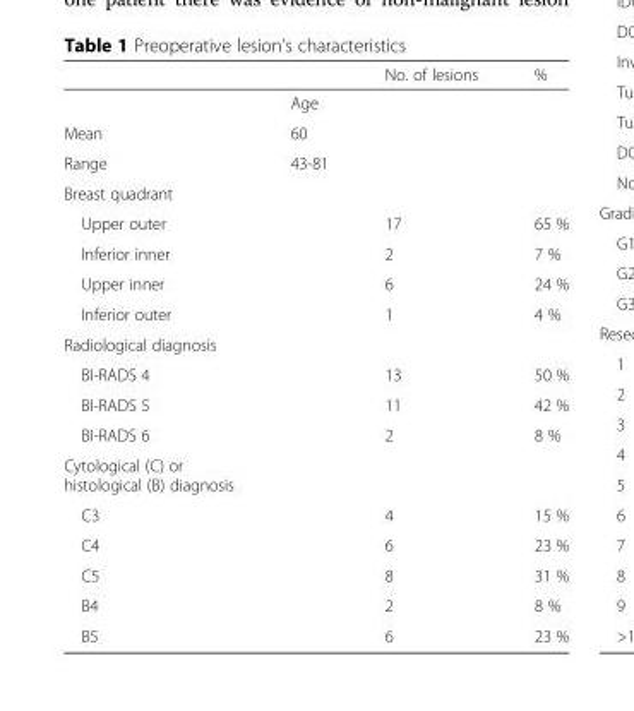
<table><thead><tr><td></td><td></td><td>No. of lesions</td><td>%</td></tr></thead><tbody><tr><td></td><td>Age</td><td></td><td></td></tr><tr><td>Mean</td><td>60</td><td></td><td></td></tr><tr><td>Range</td><td>43-81</td><td></td><td></td></tr><tr><td colspan="4">Breast quadrant</td></tr><tr><td>Upper outer</td><td></td><td>17</td><td>65 %</td></tr><tr><td>Inferior inner</td><td></td><td>2</td><td>7 %</td></tr><tr><td>Upper inner</td><td></td><td>6</td><td>24 %</td></tr><tr><td>Inferior outer</td><td></td><td>1</td><td>4 %</td></tr><tr><td colspan="4">Radiological diagnosis</td></tr><tr><td>BI-RADS 4</td><td></td><td>13</td><td>50 %</td></tr><tr><td>BI-RADS 5</td><td></td><td>11</td><td>42 %</td></tr><tr><td>BI-RADS 6</td><td></td><td>2</td><td>8 %</td></tr><tr><td colspan="4">Cytological (C) or histological (B) diagnosis</td></tr><tr><td>C3</td><td></td><td>4</td><td>15 %</td></tr><tr><td>C4</td><td></td><td>6</td><td>23 %</td></tr><tr><td>C5</td><td></td><td>8</td><td>31 %</td></tr><tr><td>B4</td><td></td><td>2</td><td>8 %</td></tr><tr><td>B5</td><td></td><td>6</td><td>23 %</td></tr></tbody></table>